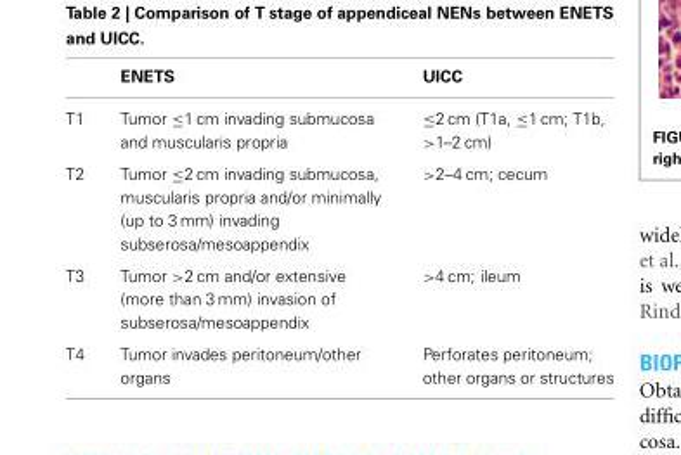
<table><thead><tr><td></td><td>ENETS</td><td>UICC</td></tr></thead><tbody><tr><td>T1</td><td>Tumor ≤1 cm invading submucosa and muscularis propria</td><td>≤2 cm (T1a, ≤1 cm; T1b, &gt;1–2 cm)</td></tr><tr><td>T2</td><td>Tumor ≤2 cm invading submucosa, muscularis propria and/or minimally (up to 3 mm) invading subserosa/mesoappendix</td><td>&gt;2–4 cm; cecum</td></tr><tr><td>T3</td><td>Tumor &gt;2 cm and/or extensive (more than 3 mm) invasion of subserosa/mesoappendix</td><td>&gt;4 cm; ileum</td></tr><tr><td>T4</td><td>Tumor invades peritoneum/other organs</td><td>Perforates peritoneum; other organs or structures</td></tr></tbody></table>